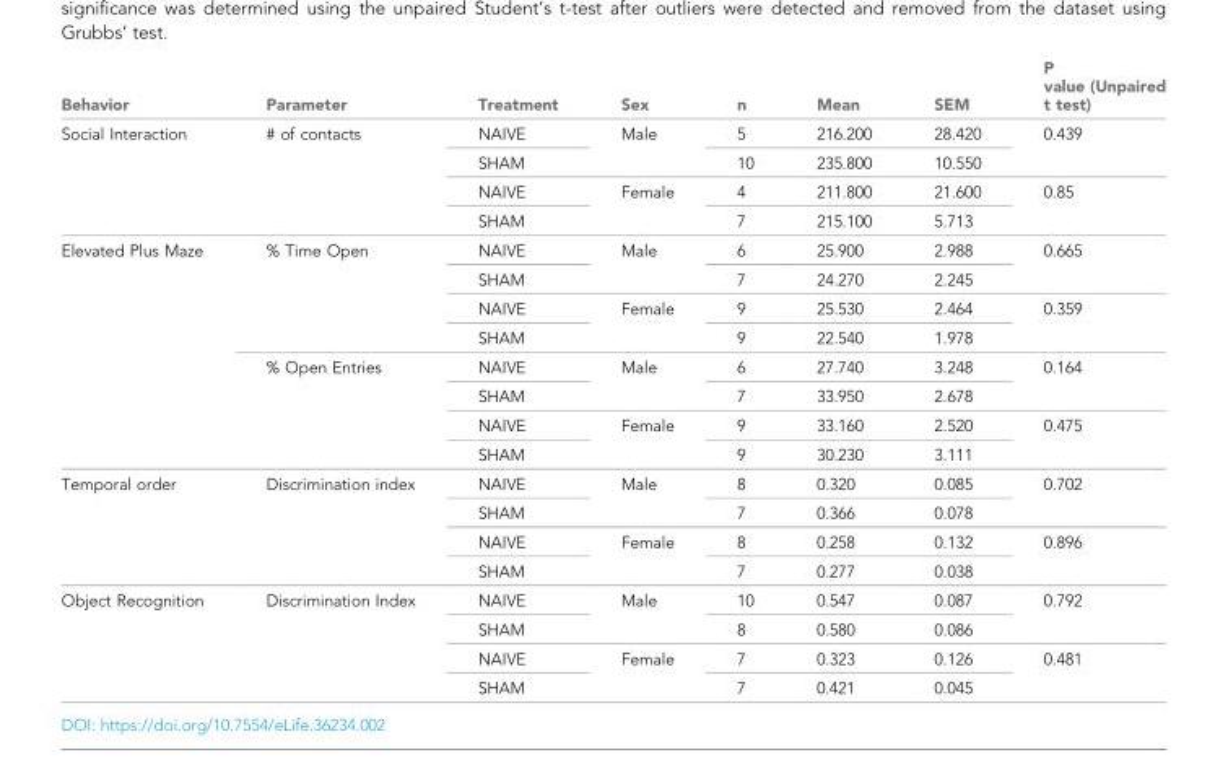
<table><thead><tr><td>Behavior</td><td>Parameter</td><td>Treatment</td><td>Sex</td><td>n</td><td>Mean</td><td>SEM</td><td>P value (Unpaired t test)</td></tr></thead><tbody><tr><td rowspan="4">Social Interaction</td><td rowspan="4"># of contacts</td><td>NAIVE</td><td rowspan="2">Male</td><td>5</td><td>216.200</td><td>28.420</td><td rowspan="2">0.439</td></tr><tr><td>SHAM</td><td>10</td><td>235.800</td><td>10.550</td></tr><tr><td>NAIVE</td><td rowspan="2">Female</td><td>4</td><td>211.800</td><td>21.600</td><td rowspan="2">0.85</td></tr><tr><td>SHAM</td><td>7</td><td>215.100</td><td>5.713</td></tr><tr><td rowspan="8">Elevated Plus Maze</td><td rowspan="4">% Time Open</td><td>NAIVE</td><td rowspan="2">Male</td><td>6</td><td>25.900</td><td>2.988</td><td rowspan="2">0.665</td></tr><tr><td>SHAM</td><td>7</td><td>24.270</td><td>2.245</td></tr><tr><td>NAIVE</td><td rowspan="2">Female</td><td>9</td><td>25.530</td><td>2.464</td><td rowspan="2">0.359</td></tr><tr><td>SHAM</td><td>9</td><td>22.540</td><td>1.978</td></tr><tr><td rowspan="4">% Open Entries</td><td>NAIVE</td><td rowspan="2">Male</td><td>6</td><td>27.740</td><td>3.248</td><td rowspan="2">0.164</td></tr><tr><td>SHAM</td><td>7</td><td>33.950</td><td>2.678</td></tr><tr><td>NAIVE</td><td rowspan="2">Female</td><td>9</td><td>33.160</td><td>2.520</td><td rowspan="2">0.475</td></tr><tr><td>SHAM</td><td>9</td><td>30.230</td><td>3.111</td></tr><tr><td rowspan="4">Temporal order</td><td rowspan="4">Discrimination index</td><td>NAIVE</td><td rowspan="2">Male</td><td>8</td><td>0.320</td><td>0.085</td><td rowspan="2">0.702</td></tr><tr><td>SHAM</td><td>7</td><td>0.366</td><td>0.078</td></tr><tr><td>NAIVE</td><td rowspan="2">Female</td><td>8</td><td>0.258</td><td>0.132</td><td rowspan="2">0.896</td></tr><tr><td>SHAM</td><td>7</td><td>0.277</td><td>0.038</td></tr><tr><td rowspan="4">Object Recognition</td><td rowspan="4">Discrimination Index</td><td>NAIVE</td><td rowspan="2">Male</td><td>10</td><td>0.547</td><td>0.087</td><td rowspan="2">0.792</td></tr><tr><td>SHAM</td><td>8</td><td>0.580</td><td>0.086</td></tr><tr><td>NAIVE</td><td rowspan="2">Female</td><td>7</td><td>0.323</td><td>0.126</td><td rowspan="2">0.481</td></tr><tr><td>SHAM</td><td>7</td><td>0.421</td><td>0.045</td></tr></tbody></table>